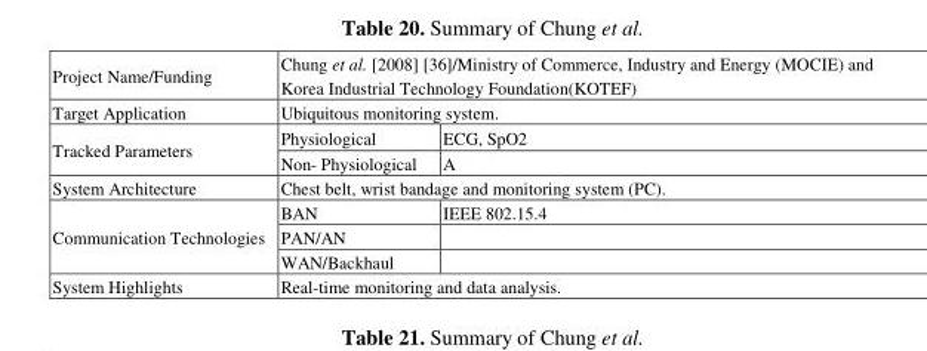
<table><tbody><tr><td>Project Name/Funding</td><td colspan="2">Chung et al. [2008] [36]/Ministry of Commerce, Industry and Energy (MOCIE) and Korea Industrial Technology Foundation(KOTEF)</td></tr><tr><td>Target Application</td><td colspan="2">Ubiquitous monitoring system.</td></tr><tr><td rowspan="2">Tracked Parameters</td><td>Physiological</td><td>ECG, SpO2</td></tr><tr><td>Non- Physiological</td><td>A</td></tr><tr><td>System Architecture</td><td colspan="2">Chest belt, wrist bandage and monitoring system (PC).</td></tr><tr><td rowspan="3">Communication Technologies</td><td>BAN</td><td>IEEE 802.15.4</td></tr><tr><td>PAN/AN</td><td></td></tr><tr><td>WAN/Backhaul</td><td></td></tr><tr><td>System Highlights</td><td colspan="2">Real-time monitoring and data analysis.</td></tr></tbody></table>